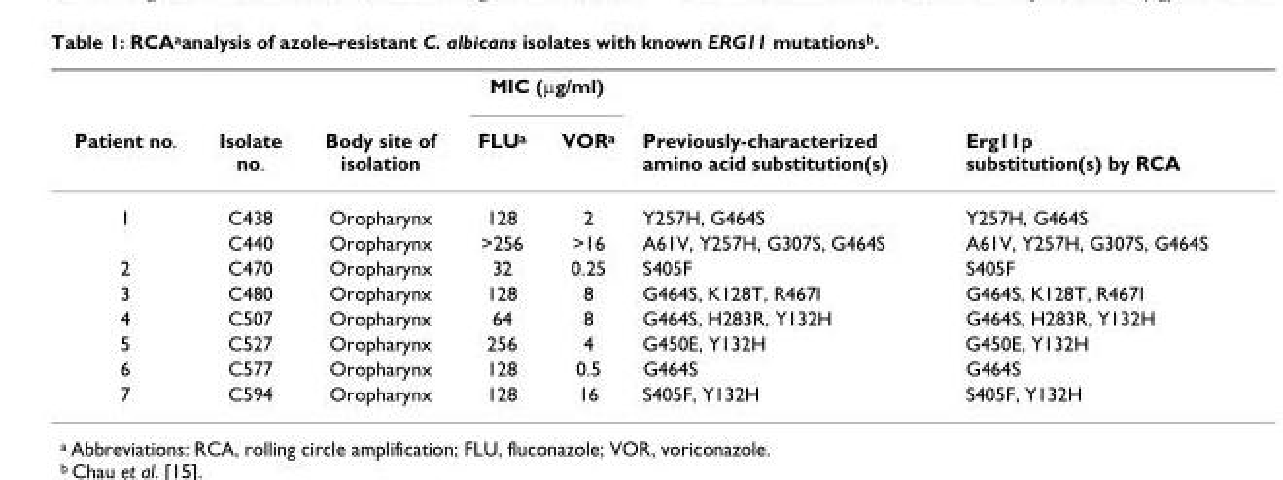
<table><thead><tr><td rowspan="2">Patient no.</td><td rowspan="2">Isolate no.</td><td rowspan="2">Body site of isolation</td><td colspan="2">MIC (μg/ml)</td><td rowspan="2">Previously-characterized amino acid substitution(s)</td><td rowspan="2">Erg11p substitution(s) by RCA</td></tr><tr><td>FLU<sup>a</sup></td><td>VOR<sup>a</sup></td></tr></thead><tbody><tr><td rowspan="2">1</td><td>C438</td><td>Oropharynx</td><td>128</td><td>2</td><td>Y257H, G464S</td><td>Y257H, G464S</td></tr><tr><td>C440</td><td>Oropharynx</td><td>&gt;256</td><td>&gt;16</td><td>A61V, Y257H, G307S, G464S</td><td>A61V, Y257H, G307S, G464S</td></tr><tr><td>2</td><td>C470</td><td>Oropharynx</td><td>32</td><td>0.25</td><td>S405F</td><td>S405F</td></tr><tr><td>3</td><td>C480</td><td>Oropharynx</td><td>128</td><td>8</td><td>G464S, K128T, R467I</td><td>G464S, K128T, R467I</td></tr><tr><td>4</td><td>C507</td><td>Oropharynx</td><td>64</td><td>8</td><td>G464S, H283R, Y132H</td><td>G464S, H283R, Y132H</td></tr><tr><td>5</td><td>C527</td><td>Oropharynx</td><td>256</td><td>4</td><td>G450E, Y132H</td><td>G450E, Y132H</td></tr><tr><td>6</td><td>C577</td><td>Oropharynx</td><td>128</td><td>0.5</td><td>G464S</td><td>G464S</td></tr><tr><td>7</td><td>C594</td><td>Oropharynx</td><td>128</td><td>16</td><td>S405F, Y132H</td><td>S405F, Y132H</td></tr></tbody></table>